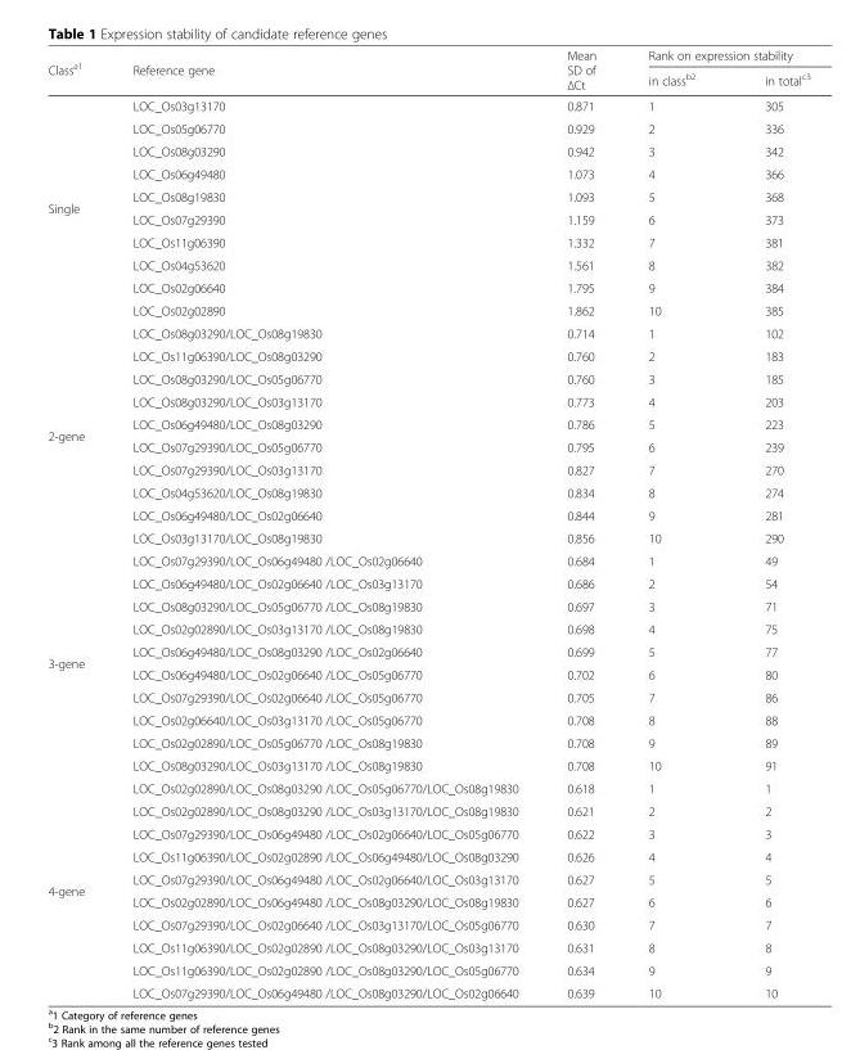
<table><thead><tr><td rowspan="2">Class<sup>a1</sup></td><td rowspan="2">Reference gene</td><td rowspan="2">Mean SD of ΔCt</td><td colspan="2">Rank on expression stability</td></tr><tr><td>in class<sup>b2</sup></td><td>in total<sup>c3</sup></td></tr></thead><tbody><tr><td rowspan="10">Single</td><td>LOC_Os03g13170</td><td>0.871</td><td>1</td><td>305</td></tr><tr><td>LOC_Os05g06770</td><td>0.929</td><td>2</td><td>336</td></tr><tr><td>LOC_Os08g03290</td><td>0.942</td><td>3</td><td>342</td></tr><tr><td>LOC_Os06g49480</td><td>1.073</td><td>4</td><td>366</td></tr><tr><td>LOC_Os08g19830</td><td>1.093</td><td>5</td><td>368</td></tr><tr><td>LOC_Os07g29390</td><td>1.159</td><td>6</td><td>373</td></tr><tr><td>LOC_Os11g06390</td><td>1.332</td><td>7</td><td>381</td></tr><tr><td>LOC_Os04g53620</td><td>1.561</td><td>8</td><td>382</td></tr><tr><td>LOC_Os02g06640</td><td>1.795</td><td>9</td><td>384</td></tr><tr><td>LOC_Os02g02890</td><td>1.862</td><td>10</td><td>385</td></tr><tr><td rowspan="10">2-gene</td><td>LOC_Os08g03290/LOC_Os08g19830</td><td>0.714</td><td>1</td><td>102</td></tr><tr><td>LOC_Os11g06390/LOC_Os08g03290</td><td>0.760</td><td>2</td><td>183</td></tr><tr><td>LOC_Os08g03290/LOC_Os05g06770</td><td>0.760</td><td>3</td><td>185</td></tr><tr><td>LOC_Os08g03290/LOC_Os03g13170</td><td>0.773</td><td>4</td><td>203</td></tr><tr><td>LOC_Os06g49480/LOC_Os08g03290</td><td>0.786</td><td>5</td><td>223</td></tr><tr><td>LOC_Os07g29390/LOC_Os05g06770</td><td>0.795</td><td>6</td><td>239</td></tr><tr><td>LOC_Os07g29390/LOC_Os03g13170</td><td>0.827</td><td>7</td><td>270</td></tr><tr><td>LOC_Os04g53620/LOC_Os08g19830</td><td>0.834</td><td>8</td><td>274</td></tr><tr><td>LOC_Os06g49480/LOC_Os02g06640</td><td>0.844</td><td>9</td><td>281</td></tr><tr><td>LOC_Os03g13170/LOC_Os08g19830</td><td>0.856</td><td>10</td><td>290</td></tr><tr><td rowspan="10">3-gene</td><td>LOC_Os07g29390/LOC_Os06g49480 /LOC_Os02g06640</td><td>0.684</td><td>1</td><td>49</td></tr><tr><td>LOC_Os06g49480/LOC_Os02g06640 /LOC_Os03g13170</td><td>0.686</td><td>2</td><td>54</td></tr><tr><td>LOC_Os08g03290/LOC_Os05g06770 /LOC_Os08g19830</td><td>0.697</td><td>3</td><td>71</td></tr><tr><td>LOC_Os02g02890/LOC_Os03g13170 /LOC_Os08g19830</td><td>0.698</td><td>4</td><td>75</td></tr><tr><td>LOC_Os06g49480/LOC_Os08g03290 /LOC_Os02g06640</td><td>0.699</td><td>5</td><td>77</td></tr><tr><td>LOC_Os06g49480/LOC_Os02g06640 /LOC_Os05g06770</td><td>0.702</td><td>6</td><td>80</td></tr><tr><td>LOC_Os07g29390/LOC_Os02g06640 /LOC_Os05g06770</td><td>0.705</td><td>7</td><td>86</td></tr><tr><td>LOC_Os02g06640/LOC_Os03g13170 /LOC_Os05g06770</td><td>0.708</td><td>8</td><td>88</td></tr><tr><td>LOC_Os02g02890/LOC_Os05g06770 /LOC_Os08g19830</td><td>0.708</td><td>9</td><td>89</td></tr><tr><td>LOC_Os08g03290/LOC_Os03g13170 /LOC_Os08g19830</td><td>0.708</td><td>10</td><td>91</td></tr><tr><td rowspan="10">4-gene</td><td>LOC_Os02g02890/LOC_Os08g03290 /LOC_Os05g06770/LOC_Os08g19830</td><td>0.618</td><td>1</td><td>1</td></tr><tr><td>LOC_Os02g02890/LOC_Os08g03290 /LOC_Os03g13170/LOC_Os08g19830</td><td>0.621</td><td>2</td><td>2</td></tr><tr><td>LOC_Os07g29390/LOC_Os06g49480 /LOC_Os02g06640/LOC_Os05g06770</td><td>0.622</td><td>3</td><td>3</td></tr><tr><td>LOC_Os11g06390/LOC_Os02g02890 /LOC_Os06g49480/LOC_Os08g03290</td><td>0.626</td><td>4</td><td>4</td></tr><tr><td>LOC_Os07g29390/LOC_Os06g49480 /LOC_Os02g06640/LOC_Os03g13170</td><td>0.627</td><td>5</td><td>5</td></tr><tr><td>LOC_Os02g02890/LOC_Os06g49480 /LOC_Os08g03290/LOC_Os08g19830</td><td>0.627</td><td>6</td><td>6</td></tr><tr><td>LOC_Os07g29390/LOC_Os02g06640 /LOC_Os03g13170/LOC_Os05g06770</td><td>0.630</td><td>7</td><td>7</td></tr><tr><td>LOC_Os11g06390/LOC_Os02g02890 /LOC_Os08g03290/LOC_Os03g13170</td><td>0.631</td><td>8</td><td>8</td></tr><tr><td>LOC_Os11g06390/LOC_Os02g02890 /LOC_Os08g03290/LOC_Os05g06770</td><td>0.634</td><td>9</td><td>9</td></tr><tr><td>LOC_Os07g29390/LOC_Os06g49480 /LOC_Os08g03290/LOC_Os02g06640</td><td>0.639</td><td>10</td><td>10</td></tr></tbody></table>